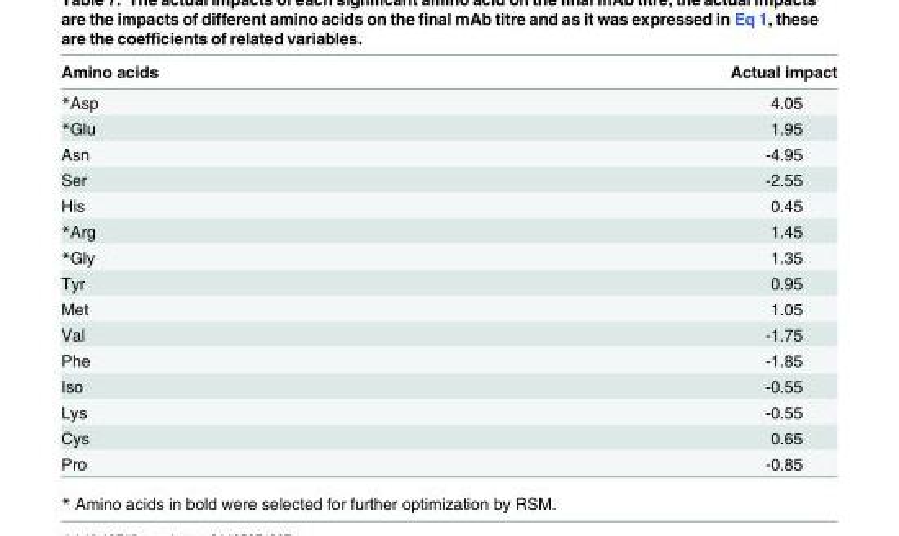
<table><thead><tr><td>Amino acids</td><td>Actual impact</td></tr></thead><tbody><tr><td>*Asp</td><td>4.05</td></tr><tr><td>*Glu</td><td>1.95</td></tr><tr><td>Asn</td><td>-4.95</td></tr><tr><td>Ser</td><td>-2.55</td></tr><tr><td>His</td><td>0.45</td></tr><tr><td>*Arg</td><td>1.45</td></tr><tr><td>*Gly</td><td>1.35</td></tr><tr><td>Tyr</td><td>0.95</td></tr><tr><td>Met</td><td>1.05</td></tr><tr><td>Val</td><td>-1.75</td></tr><tr><td>Phe</td><td>-1.85</td></tr><tr><td>Iso</td><td>-0.55</td></tr><tr><td>Lys</td><td>-0.55</td></tr><tr><td>Cys</td><td>0.65</td></tr><tr><td>Pro</td><td>-0.85</td></tr></tbody></table>